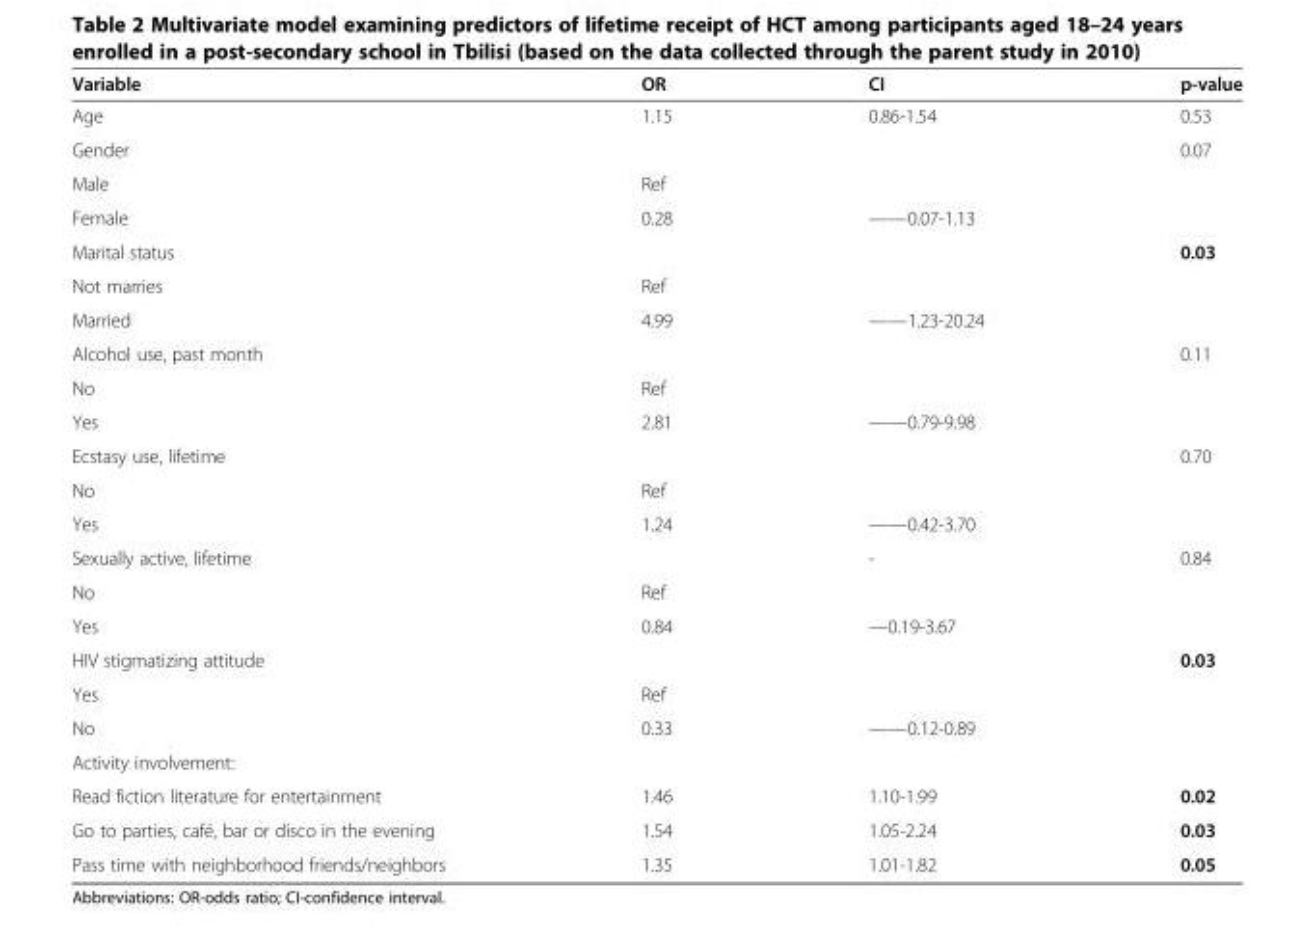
<table><thead><tr><td>Variable</td><td>OR</td><td>CI</td><td>p-value</td></tr></thead><tbody><tr><td>Age</td><td>1.15</td><td>0.86-1.54</td><td>0.53</td></tr><tr><td colspan="3">Gender</td><td rowspan="3">0.07</td></tr><tr><td>Male</td><td>Ref</td><td></td></tr><tr><td>Female</td><td>0.28</td><td>——0.07-1.13</td></tr><tr><td colspan="3">Marital status</td><td rowspan="3">0.03</td></tr><tr><td>Not marries</td><td>Ref</td><td></td></tr><tr><td>Married</td><td>4.99</td><td>——1.23-20.24</td></tr><tr><td colspan="3">Alcohol use, past month</td><td rowspan="3">0.11</td></tr><tr><td>No</td><td>Ref</td><td></td></tr><tr><td>Yes</td><td>2.81</td><td>——0.79-9.98</td></tr><tr><td colspan="3">Ecstasy use, lifetime</td><td rowspan="3">0.70</td></tr><tr><td>No</td><td>Ref</td><td></td></tr><tr><td>Yes</td><td>1.24</td><td>——0.42-3.70</td></tr><tr><td>Sexually active, lifetime</td><td></td><td>-</td><td rowspan="3">0.84</td></tr><tr><td>No</td><td>Ref</td><td></td></tr><tr><td>Yes</td><td>0.84</td><td>—0.19-3.67</td></tr><tr><td colspan="3">HIV stigmatizing attitude</td><td rowspan="3">0.03</td></tr><tr><td>Yes</td><td>Ref</td><td></td></tr><tr><td>No</td><td>0.33</td><td>——0.12-0.89</td></tr><tr><td colspan="4">Activity involvement:</td></tr><tr><td>Read fiction literature for entertainment</td><td>1.46</td><td>1.10-1.99</td><td>0.02</td></tr><tr><td>Go to parties, café, bar or disco in the evening</td><td>1.54</td><td>1.05-2.24</td><td>0.03</td></tr><tr><td>Pass time with neighborhood friends/neighbors</td><td>1.35</td><td>1.01-1.82</td><td>0.05</td></tr></tbody></table>